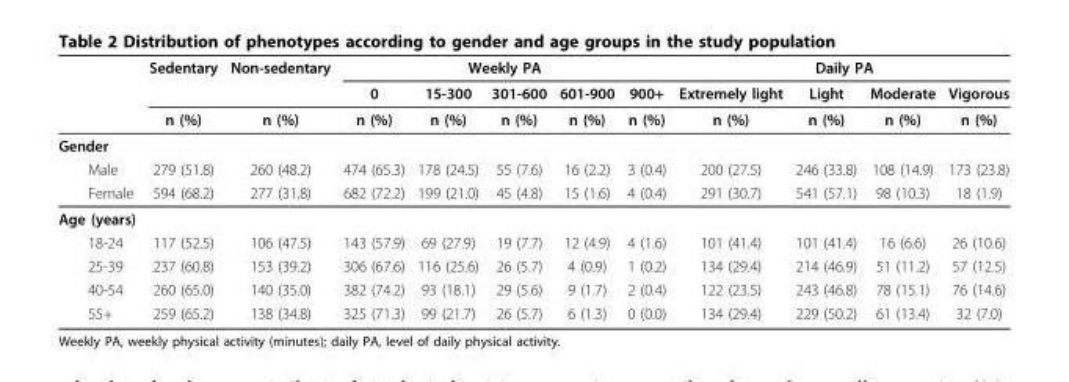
<table><thead><tr><td rowspan="3"></td><td rowspan="3">Sedentary n (%)</td><td rowspan="3">Non-sedentary n (%)</td><td colspan="5">Weekly PA</td><td colspan="4">Daily PA</td></tr><tr><td rowspan="2">0 n (%)</td><td rowspan="2">15-300 n (%)</td><td rowspan="2">301-600 n (%)</td><td rowspan="2">601-900 n (%)</td><td rowspan="2">900+ n (%)</td><td rowspan="2">Extremely light n (%)</td><td rowspan="2">Light n (%)</td><td rowspan="2">Moderate n (%)</td><td rowspan="2">Vigorous n (%)</td></tr><tr></tr></thead><tbody><tr><td colspan="12">Gender</td></tr><tr><td>Male</td><td>279 (51.8)</td><td>260 (48.2)</td><td>474 (65.3)</td><td>178 (24.5)</td><td>55 (7.6)</td><td>16 (2.2)</td><td>3 (0.4)</td><td>200 (27.5)</td><td>246 (33.8)</td><td>108 (14.9)</td><td>173 (23.8)</td></tr><tr><td>Female</td><td>594 (68.2)</td><td>277 (31.8)</td><td>682 (72.2)</td><td>199 (21.0)</td><td>45 (4.8)</td><td>15 (1.6)</td><td>4 (0.4)</td><td>291 (30.7)</td><td>541 (57.1)</td><td>98 (10.3)</td><td>18 (1.9)</td></tr><tr><td colspan="12">Age (years)</td></tr><tr><td>18-24</td><td>117 (52.5)</td><td>106 (47.5)</td><td>143 (57.9)</td><td>69 (27.9)</td><td>19 (7.7)</td><td>12 (4.9)</td><td>4 (1.6)</td><td>101 (41.4)</td><td>101 (41.4)</td><td>16 (6.6)</td><td>26 (10.6)</td></tr><tr><td>25-39</td><td>237 (60.8)</td><td>153 (39.2)</td><td>306 (67.6)</td><td>116 (25.6)</td><td>26 (5.7)</td><td>4 (0.9)</td><td>1 (0.2)</td><td>134 (29.4)</td><td>214 (46.9)</td><td>51 (11.2)</td><td>57 (12.5)</td></tr><tr><td>40-54</td><td>260 (65.0)</td><td>140 (35.0)</td><td>382 (74.2)</td><td>93 (18.1)</td><td>29 (5.6)</td><td>9 (1.7)</td><td>2 (0.4)</td><td>122 (23.5)</td><td>243 (46.8)</td><td>78 (15.1)</td><td>76 (14.6)</td></tr><tr><td>55+</td><td>259 (65.2)</td><td>138 (34.8)</td><td>325 (71.3)</td><td>99 (21.7)</td><td>26 (5.7)</td><td>6 (1.3)</td><td>0 (0.0)</td><td>134 (29.4)</td><td>229 (50.2)</td><td>61 (13.4)</td><td>32 (7.0)</td></tr></tbody></table>